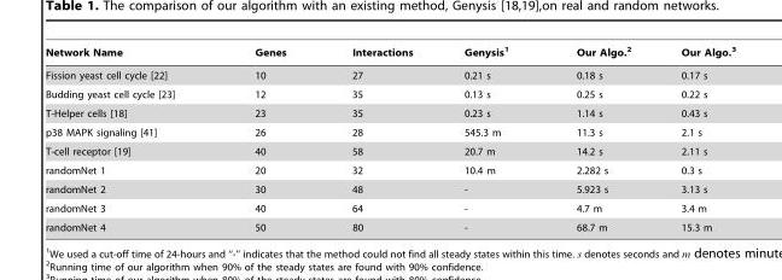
<table><thead><tr><td>Network Name</td><td>Genes</td><td>Interactions</td><td>Genysis<sup>1</sup></td><td>Our Algo.<sup>2</sup></td><td>Our Algo.<sup>3</sup></td></tr></thead><tbody><tr><td>Fission yeast cell cycle [22]</td><td>10</td><td>27</td><td>0.21 s</td><td>0.18 s</td><td>0.17 s</td></tr><tr><td>Budding yeast cell cycle [23]</td><td>12</td><td>35</td><td>0.13 s</td><td>0.25 s</td><td>0.22 s</td></tr><tr><td>T-Helper cells [18]</td><td>23</td><td>35</td><td>0.23 s</td><td>1.14 s</td><td>0.43 s</td></tr><tr><td>p38 MAPK signaling [41]</td><td>26</td><td>28</td><td>545.3 m</td><td>11.3 s</td><td>2.1 s</td></tr><tr><td>T-cell receptor [19]</td><td>40</td><td>58</td><td>20.7 m</td><td>14.2 s</td><td>2.11 s</td></tr><tr><td>randomNet 1</td><td>20</td><td>32</td><td>10.4 m</td><td>2.282 s</td><td>0.3 s</td></tr><tr><td>randomNet 2</td><td>30</td><td>48</td><td>-</td><td>5.923 s</td><td>3.13 s</td></tr><tr><td>randomNet 3</td><td>40</td><td>64</td><td>-</td><td>4.7 m</td><td>3.4 m</td></tr><tr><td>randomNet 4</td><td>50</td><td>80</td><td>-</td><td>68.7 m</td><td>15.3 m</td></tr></tbody></table>